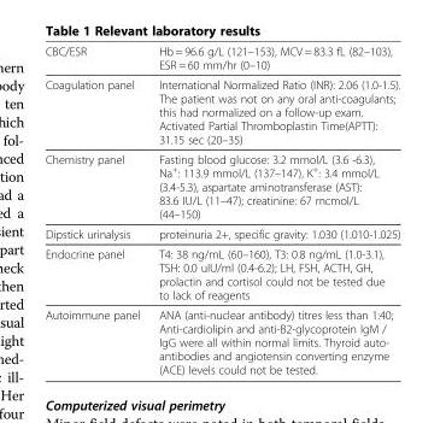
<table><tbody><tr><td>CBC/ESR</td><td>Hb = 96.6 g/L (121–153), MCV = 83.3 fL (82–103), ESR = 60 mm/hr (0–10)</td></tr><tr><td>Coagulation panel</td><td>International Normalized Ratio (INR): 2.06 (1.0-1.5). The patient was not on any oral anti-coagulants; this had normalized on a follow-up exam. Activated Partial Thromboplastin Time(APTT): 31.15 sec (20–35)</td></tr><tr><td>Chemistry panel</td><td>Fasting blood glucose: 3.2 mmol/L (3.6 -6.3), Na<sup>+</sup>: 113.9 mmol/L (137–147), K<sup>+</sup>: 3.4 mmol/L (3.4-5.3), aspartate aminotransferase (AST): 83.6 IU/L (11–47); creatinine: 67 mcmol/L (44–150)</td></tr><tr><td>Dipstick urinalysis</td><td>proteinuria 2+, specific gravity: 1.030 (1.010-1.025)</td></tr><tr><td>Endocrine panel</td><td>T4: 38 ng/mL (60–160), T3: 0.8 ng/mL (1.0-3.1), TSH: 0.0 uIU/ml (0.4-6.2); LH, FSH, ACTH, GH, prolactin and cortisol could not be tested due to lack of reagents</td></tr><tr><td>Autoimmune panel</td><td>ANA (anti-nuclear antibody) titres less than 1:40; Anti-cardiolipin and anti-B2-glycoprotein IgM / IgG were all within normal limits. Thyroid auto- antibodies and angiotensin converting enzyme (ACE) levels could not be tested.</td></tr></tbody></table>